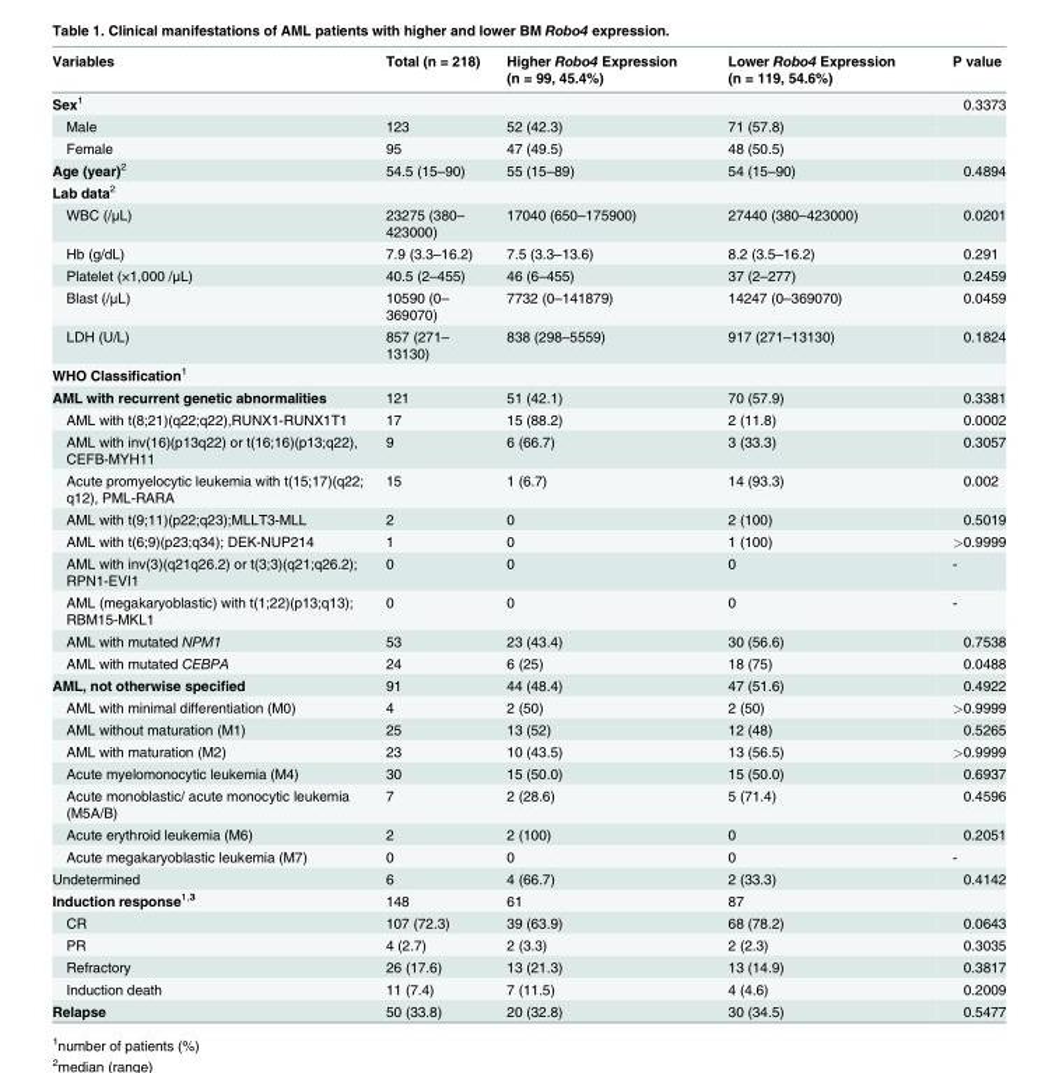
<table><thead><tr><td>Variables</td><td>Total (n = 218)</td><td>Higher Robo4 Expression (n = 99, 45.4%)</td><td>Lower Robo4 Expression (n = 119, 54.6%)</td><td>P value</td></tr></thead><tbody><tr><td>Sex<sup>1</sup></td><td></td><td></td><td></td><td>0.3373</td></tr><tr><td>Male</td><td>123</td><td>52 (42.3)</td><td>71 (57.8)</td><td></td></tr><tr><td>Female</td><td>95</td><td>47 (49.5)</td><td>48 (50.5)</td><td></td></tr><tr><td>Age (year)<sup>2</sup></td><td>54.5 (15–90)</td><td>55 (15–89)</td><td>54 (15–90)</td><td>0.4894</td></tr><tr><td colspan="5">Lab data<sup>2</sup></td></tr><tr><td>WBC (/μL)</td><td>23275 (380– 423000)</td><td>17040 (650–175900)</td><td>27440 (380–423000)</td><td>0.0201</td></tr><tr><td>Hb (g/dL)</td><td>7.9 (3.3–16.2)</td><td>7.5 (3.3–13.6)</td><td>8.2 (3.5–16.2)</td><td>0.291</td></tr><tr><td>Platelet (×1,000 /μL)</td><td>40.5 (2–455)</td><td>46 (6–455)</td><td>37 (2–277)</td><td>0.2459</td></tr><tr><td>Blast (/μL)</td><td>10590 (0– 369070)</td><td>7732 (0–141879)</td><td>14247 (0–369070)</td><td>0.0459</td></tr><tr><td>LDH (U/L)</td><td>857 (271– 13130)</td><td>838 (298–5559)</td><td>917 (271–13130)</td><td>0.1824</td></tr><tr><td colspan="5">WHO Classification<sup>1</sup></td></tr><tr><td>AML with recurrent genetic abnormalities</td><td>121</td><td>51 (42.1)</td><td>70 (57.9)</td><td>0.3381</td></tr><tr><td>AML with t(8;21)(q22;q22),RUNX1-RUNX1T1</td><td>17</td><td>15 (88.2)</td><td>2 (11.8)</td><td>0.0002</td></tr><tr><td>AML with inv(16)(p13q22) or t(16;16)(p13;q22), CEFB-MYH11</td><td>9</td><td>6 (66.7)</td><td>3 (33.3)</td><td>0.3057</td></tr><tr><td>Acute promyelocytic leukemia with t(15;17)(q22; q12), PML-RARA</td><td>15</td><td>1 (6.7)</td><td>14 (93.3)</td><td>0.002</td></tr><tr><td>AML with t(9;11)(p22;q23);MLLT3-MLL</td><td>2</td><td>0</td><td>2 (100)</td><td>0.5019</td></tr><tr><td>AML with t(6;9)(p23;q34); DEK-NUP214</td><td>1</td><td>0</td><td>1 (100)</td><td>&gt;0.9999</td></tr><tr><td>AML with inv(3)(q21q26.2) or t(3;3)(q21;q26.2); RPN1-EVI1</td><td>0</td><td>0</td><td>0</td><td>-</td></tr><tr><td>AML (megakaryoblastic) with t(1;22)(p13;q13); RBM15-MKL1</td><td>0</td><td>0</td><td>0</td><td>-</td></tr><tr><td>AML with mutated NPM1</td><td>53</td><td>23 (43.4)</td><td>30 (56.6)</td><td>0.7538</td></tr><tr><td>AML with mutated CEBPA</td><td>24</td><td>6 (25)</td><td>18 (75)</td><td>0.0488</td></tr><tr><td>AML, not otherwise specified</td><td>91</td><td>44 (48.4)</td><td>47 (51.6)</td><td>0.4922</td></tr><tr><td>AML with minimal differentiation (M0)</td><td>4</td><td>2 (50)</td><td>2 (50)</td><td>&gt;0.9999</td></tr><tr><td>AML without maturation (M1)</td><td>25</td><td>13 (52)</td><td>12 (48)</td><td>0.5265</td></tr><tr><td>AML with maturation (M2)</td><td>23</td><td>10 (43.5)</td><td>13 (56.5)</td><td>&gt;0.9999</td></tr><tr><td>Acute myelomonocytic leukemia (M4)</td><td>30</td><td>15 (50.0)</td><td>15 (50.0)</td><td>0.6937</td></tr><tr><td>Acute monoblastic/ acute monocytic leukemia (M5A/B)</td><td>7</td><td>2 (28.6)</td><td>5 (71.4)</td><td>0.4596</td></tr><tr><td>Acute erythroid leukemia (M6)</td><td>2</td><td>2 (100)</td><td>0</td><td>0.2051</td></tr><tr><td>Acute megakaryoblastic leukemia (M7)</td><td>0</td><td>0</td><td>0</td><td>-</td></tr><tr><td>Undetermined</td><td>6</td><td>4 (66.7)</td><td>2 (33.3)</td><td>0.4142</td></tr><tr><td>Induction response<sup>1,3</sup></td><td>148</td><td>61</td><td>87</td><td></td></tr><tr><td>CR</td><td>107 (72.3)</td><td>39 (63.9)</td><td>68 (78.2)</td><td>0.0643</td></tr><tr><td>PR</td><td>4 (2.7)</td><td>2 (3.3)</td><td>2 (2.3)</td><td>0.3035</td></tr><tr><td>Refractory</td><td>26 (17.6)</td><td>13 (21.3)</td><td>13 (14.9)</td><td>0.3817</td></tr><tr><td>Induction death</td><td>11 (7.4)</td><td>7 (11.5)</td><td>4 (4.6)</td><td>0.2009</td></tr><tr><td>Relapse</td><td>50 (33.8)</td><td>20 (32.8)</td><td>30 (34.5)</td><td>0.5477</td></tr></tbody></table>